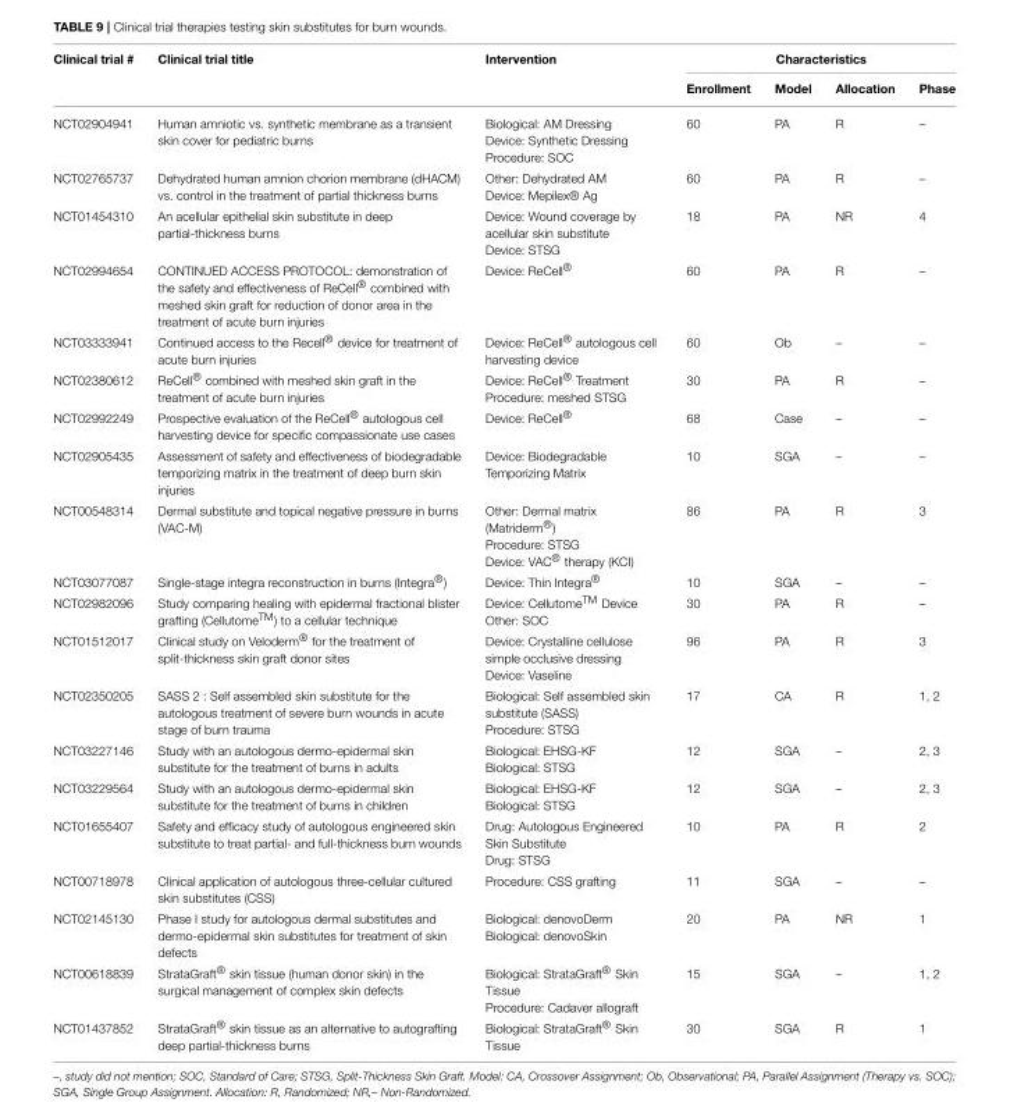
<table><thead><tr><td rowspan="2">Clinical trial #</td><td rowspan="2">Clinical trial title</td><td rowspan="2">Intervention</td><td colspan="4">Characteristics</td></tr><tr><td>Enrollment</td><td>Model</td><td>Allocation</td><td>Phase</td></tr></thead><tbody><tr><td>NCT02904941</td><td>Human amniotic vs. synthetic membrane as a transient skin cover for pediatric burns</td><td>Biological: AM Dressing Device: Synthetic Dressing Procedure: SOC</td><td>60</td><td>PA</td><td>R</td><td>–</td></tr><tr><td>NCT02765737</td><td>Dehydrated human amnion chorion membrane (dHACM) vs. control in the treatment of partial thickness burns</td><td>Other: Dehydrated AM Device: Mepilex® Ag</td><td>60</td><td>PA</td><td>R</td><td>–</td></tr><tr><td>NCT01454310</td><td>An acellular epithelial skin substitute in deep partial-thickness burns</td><td>Device: Wound coverage by acellular skin substitute Device: STSG</td><td>18</td><td>PA</td><td>NR</td><td>4</td></tr><tr><td>NCT02994654</td><td>CONTINUED ACCESS PROTOCOL: demonstration of the safety and effectiveness of ReCell® combined with meshed skin graft for reduction of donor area in the treatment of acute burn injuries</td><td>Device: ReCell®</td><td>60</td><td>PA</td><td>R</td><td>–</td></tr><tr><td>NCT03333941</td><td>Continued access to the Recell® device for treatment of acute burn injuries</td><td>Device: ReCell® autologous cell harvesting device</td><td>60</td><td>Ob</td><td>–</td><td>–</td></tr><tr><td>NCT02380612</td><td>ReCell® combined with meshed skin graft in the treatment of acute burn injuries</td><td>Device: ReCell® Treatment Procedure: meshed STSG</td><td>30</td><td>PA</td><td>R</td><td>–</td></tr><tr><td>NCT02992249</td><td>Prospective evaluation of the ReCell® autologous cell harvesting device for specific compassionate use cases</td><td>Device: ReCell®</td><td>68</td><td>Case</td><td>–</td><td>–</td></tr><tr><td>NCT02905435</td><td>Assessment of safety and effectiveness of biodegradable temporizing matrix in the treatment of deep burn skin injuries</td><td>Device: Biodegradable Temporizing Matrix</td><td>10</td><td>SGA</td><td>–</td><td>–</td></tr><tr><td>NCT00548314</td><td>Dermal substitute and topical negative pressure in burns (VAC-M)</td><td>Other: Dermal matrix (Matriderm®) Procedure: STSG Device: VAC® therapy (KCI)</td><td>86</td><td>PA</td><td>R</td><td>3</td></tr><tr><td>NCT03077087</td><td>Single-stage integra reconstruction in burns (Integra®)</td><td>Device: Thin Integra®</td><td>10</td><td>SGA</td><td>–</td><td>–</td></tr><tr><td>NCT02982096</td><td>Study comparing healing with epidermal fractional blister grafting (CellutomeTM) to a cellular technique</td><td>Device: CellutomeTM Device Other: SOC</td><td>30</td><td>PA</td><td>R</td><td>–</td></tr><tr><td>NCT01512017</td><td>Clinical study on Veloderm® for the treatment of split-thickness skin graft donor sites</td><td>Device: Crystalline cellulose simple occlusive dressing Device: Vaseline</td><td>96</td><td>PA</td><td>R</td><td>3</td></tr><tr><td>NCT02350205</td><td>SASS 2 : Self assembled skin substitute for the autologous treatment of severe burn wounds in acute stage of burn trauma</td><td>Biological: Self assembled skin substitute (SASS) Procedure: STSG</td><td>17</td><td>CA</td><td>R</td><td>1, 2</td></tr><tr><td>NCT03227146</td><td>Study with an autologous dermo-epidermal skin substitute for the treatment of burns in adults</td><td>Biological: EHSG-KF Biological: STSG</td><td>12</td><td>SGA</td><td>–</td><td>2, 3</td></tr><tr><td>NCT03229564</td><td>Study with an autologous dermo-epidermal skin substitute for the treatment of burns in children</td><td>Biological: EHSG-KF Biological: STSG</td><td>12</td><td>SGA</td><td>–</td><td>2, 3</td></tr><tr><td>NCT01655407</td><td>Safety and efficacy study of autologous engineered skin substitute to treat partial- and full-thickness burn wounds</td><td>Drug: Autologous Engineered Skin Substitute Drug: STSG</td><td>10</td><td>PA</td><td>R</td><td>2</td></tr><tr><td>NCT00718978</td><td>Clinical application of autologous three-cellular cultured skin substitutes (CSS)</td><td>Procedure: CSS grafting</td><td>11</td><td>SGA</td><td>–</td><td>–</td></tr><tr><td>NCT02145130</td><td>Phase I study for autologous dermal substitutes and dermo-epidermal skin substitutes for treatment of skin defects</td><td>Biological: denovoDerm Biological: denovoSkin</td><td>20</td><td>PA</td><td>NR</td><td>1</td></tr><tr><td>NCT00618839</td><td>StrataGraft® skin tissue (human donor skin) in the surgical management of complex skin defects</td><td>Biological: StrataGraft® Skin Tissue Procedure: Cadaver allograft</td><td>15</td><td>SGA</td><td>–</td><td>1, 2</td></tr><tr><td>NCT01437852</td><td>StrataGraft® skin tissue as an alternative to autografting deep partial-thickness burns</td><td>Biological: StrataGraft® Skin Tissue</td><td>30</td><td>SGA</td><td>R</td><td>1</td></tr></tbody></table>